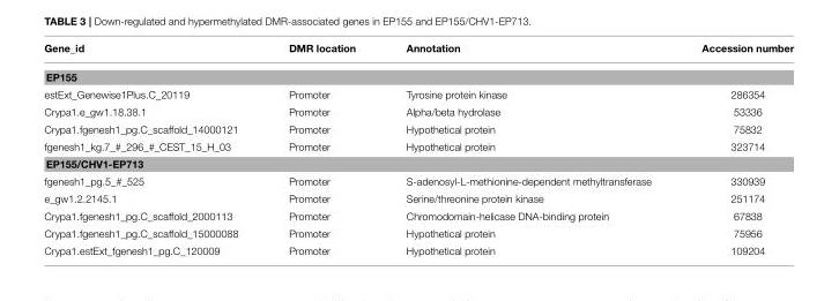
<table><thead><tr><td>Gene_id</td><td>DMR location</td><td>Annotation</td><td>Accession number</td></tr></thead><tbody><tr><td colspan="4">EP155</td></tr><tr><td>estExt_Genewise1Plus.C_20119</td><td>Promoter</td><td>Tyrosine protein kinase</td><td>286354</td></tr><tr><td>Crypa1.e_gw1.18.38.1</td><td>Promoter</td><td>Alpha/beta hydrolase</td><td>53336</td></tr><tr><td>Crypa1.fgenesh1_pg.C_scaffold_14000121</td><td>Promoter</td><td>Hypothetical protein</td><td>75832</td></tr><tr><td>fgenesh1_kg.7_#_296_#_CEST_15_H_03</td><td>Promoter</td><td>Hypothetical protein</td><td>323714</td></tr><tr><td colspan="4">EP155/CHV1-EP713</td></tr><tr><td>fgenesh1_pg.5_#_525</td><td>Promoter</td><td>S-adenosyl-L-methionine-dependent methyltransferase</td><td>330939</td></tr><tr><td>e_gw1.2.2145.1</td><td>Promoter</td><td>Serine/threonine protein kinase</td><td>251174</td></tr><tr><td>Crypa1.fgenesh1_pg.C_scaffold_2000113</td><td>Promoter</td><td>Chromodomain-helicase DNA-binding protein</td><td>67838</td></tr><tr><td>Crypa1.fgenesh1_pg.C_scaffold_15000088</td><td>Promoter</td><td>Hypothetical protein</td><td>75956</td></tr><tr><td>Crypa1.estExt_fgenesh1_pg.C_120009</td><td>Promoter</td><td>Hypothetical protein</td><td>109204</td></tr></tbody></table>